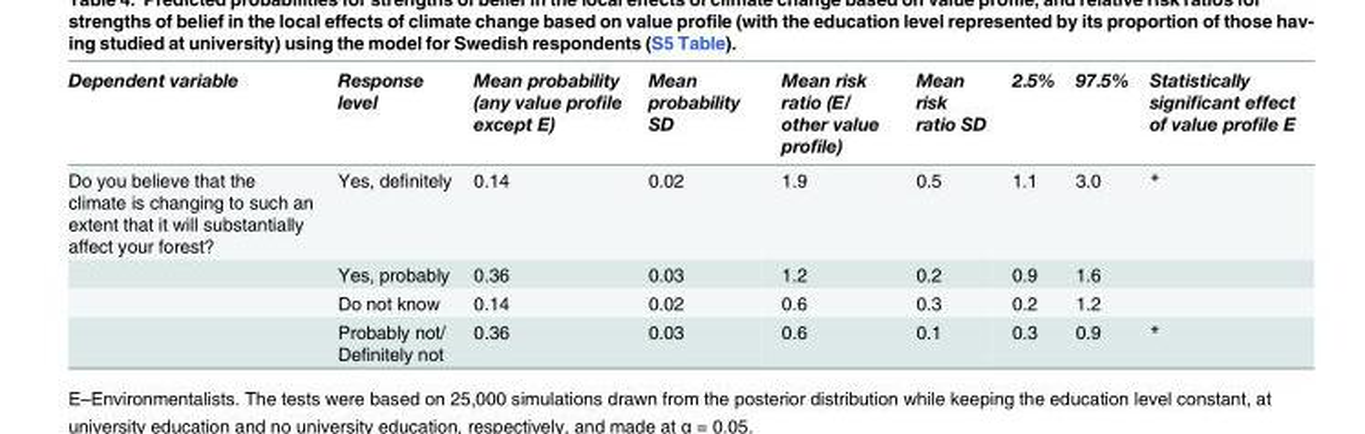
<table><thead><tr><td>Dependent variable</td><td>Response level</td><td>Mean probability (any value profile except E)</td><td>Mean probability SD</td><td>Mean risk ratio (E/ other value profile)</td><td>Mean risk ratio SD</td><td>2.5%</td><td>97.5%</td><td>Statistically significant effect of value profile E</td></tr></thead><tbody><tr><td rowspan="4">Do you believe that the climate is changing to such an extent that it will substantially affect your forest?</td><td>Yes, definitely</td><td>0.14</td><td>0.02</td><td>1.9</td><td>0.5</td><td>1.1</td><td>3.0</td><td>*</td></tr><tr><td>Yes, probably</td><td>0.36</td><td>0.03</td><td>1.2</td><td>0.2</td><td>0.9</td><td>1.6</td><td></td></tr><tr><td>Do not know</td><td>0.14</td><td>0.02</td><td>0.6</td><td>0.3</td><td>0.2</td><td>1.2</td><td></td></tr><tr><td>Probably not/ Definitely not</td><td>0.36</td><td>0.03</td><td>0.6</td><td>0.1</td><td>0.3</td><td>0.9</td><td>*</td></tr></tbody></table>